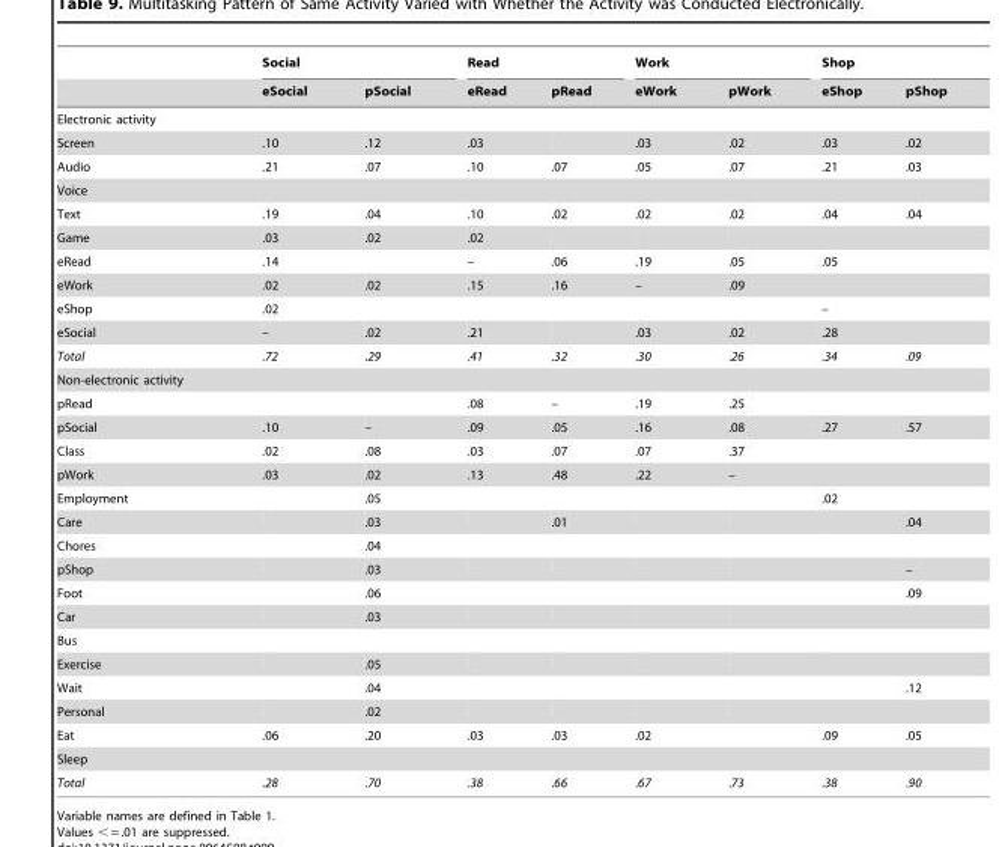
<table><thead><tr><td rowspan="2"></td><td colspan="2">Social</td><td colspan="2">Read</td><td colspan="2">Work</td><td colspan="2">Shop</td></tr><tr><td>eSocial</td><td>pSocial</td><td>eRead</td><td>pRead</td><td>eWork</td><td>pWork</td><td>eShop</td><td>pShop</td></tr></thead><tbody><tr><td colspan="9">Electronic activity</td></tr><tr><td>Screen</td><td>.10</td><td>.12</td><td>.03</td><td></td><td>.03</td><td>.02</td><td>.03</td><td>.02</td></tr><tr><td>Audio</td><td>.21</td><td>.07</td><td>.10</td><td>.07</td><td>.05</td><td>.07</td><td>.21</td><td>.03</td></tr><tr><td colspan="9">Voice</td></tr><tr><td>Text</td><td>.19</td><td>.04</td><td>.10</td><td>.02</td><td>.02</td><td>.02</td><td>.04</td><td>.04</td></tr><tr><td>Game</td><td>.03</td><td>.02</td><td>.02</td><td></td><td></td><td></td><td></td><td></td></tr><tr><td>eRead</td><td>.14</td><td></td><td>–</td><td>.06</td><td>.19</td><td>.05</td><td>.05</td><td></td></tr><tr><td>eWork</td><td>.02</td><td>.02</td><td>.15</td><td>.16</td><td>–</td><td>.09</td><td></td><td></td></tr><tr><td>eShop</td><td>.02</td><td></td><td></td><td></td><td></td><td></td><td>–</td><td></td></tr><tr><td>eSocial</td><td>–</td><td>.02</td><td>.21</td><td></td><td>.03</td><td>.02</td><td>.28</td><td></td></tr><tr><td>Total</td><td>.72</td><td>.29</td><td>.41</td><td>.32</td><td>.30</td><td>.26</td><td>.34</td><td>.09</td></tr><tr><td colspan="9">Non-electronic activity</td></tr><tr><td>pRead</td><td></td><td></td><td>.08</td><td>–</td><td>.19</td><td>.25</td><td></td><td></td></tr><tr><td>pSocial</td><td>.10</td><td>–</td><td>.09</td><td>.05</td><td>.16</td><td>.08</td><td>.27</td><td>.57</td></tr><tr><td>Class</td><td>.02</td><td>.08</td><td>.03</td><td>.07</td><td>.07</td><td>.37</td><td></td><td></td></tr><tr><td>pWork</td><td>.03</td><td>.02</td><td>.13</td><td>.48</td><td>.22</td><td>–</td><td></td><td></td></tr><tr><td>Employment</td><td></td><td>.05</td><td></td><td></td><td></td><td></td><td>.02</td><td></td></tr><tr><td>Care</td><td></td><td>.03</td><td></td><td>.01</td><td></td><td></td><td></td><td>.04</td></tr><tr><td>Chores</td><td></td><td>.04</td><td></td><td></td><td></td><td></td><td></td><td></td></tr><tr><td>pShop</td><td></td><td>.03</td><td></td><td></td><td></td><td></td><td></td><td>–</td></tr><tr><td>Foot</td><td></td><td>.06</td><td></td><td></td><td></td><td></td><td></td><td>.09</td></tr><tr><td>Car</td><td></td><td>.03</td><td></td><td></td><td></td><td></td><td></td><td></td></tr><tr><td colspan="9">Bus</td></tr><tr><td>Exercise</td><td></td><td>.05</td><td></td><td></td><td></td><td></td><td></td><td></td></tr><tr><td>Wait</td><td></td><td>.04</td><td></td><td></td><td></td><td></td><td></td><td>.12</td></tr><tr><td>Personal</td><td></td><td>.02</td><td></td><td></td><td></td><td></td><td></td><td></td></tr><tr><td>Eat</td><td>.06</td><td>.20</td><td>.03</td><td>.03</td><td>.02</td><td></td><td>.09</td><td>.05</td></tr><tr><td colspan="9">Sleep</td></tr><tr><td>Total</td><td>.28</td><td>.70</td><td>.38</td><td>.66</td><td>.67</td><td>.73</td><td>.38</td><td>.90</td></tr></tbody></table>